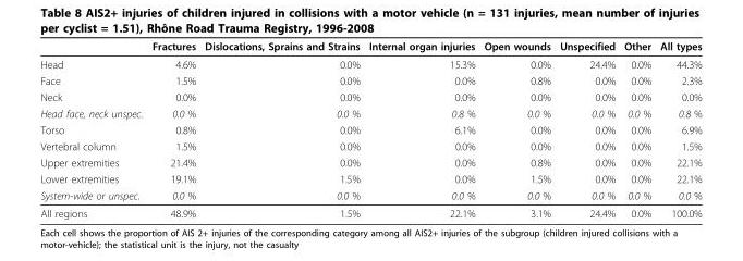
<table><thead><tr><td></td><td>Fractures</td><td>Dislocations, Sprains and Strains</td><td>Internal organ injuries</td><td>Open wounds</td><td>Unspecified</td><td>Other</td><td>All types</td></tr></thead><tbody><tr><td>Head</td><td>4.6%</td><td>0.0%</td><td>15.3%</td><td>0.0%</td><td>24.4%</td><td>0.0%</td><td>44.3%</td></tr><tr><td>Face</td><td>1.5%</td><td>0.0%</td><td>0.0%</td><td>0.8%</td><td>0.0%</td><td>0.0%</td><td>2.3%</td></tr><tr><td>Neck</td><td>0.0%</td><td>0.0%</td><td>0.0%</td><td>0.0%</td><td>0.0%</td><td>0.0%</td><td>0.0%</td></tr><tr><td>Head face, neck unspec.</td><td>0.0 %</td><td>0.0 %</td><td>0.8 %</td><td>0.0 %</td><td>0.0 %</td><td>0.0 %</td><td>0.8 %</td></tr><tr><td>Torso</td><td>0.8%</td><td>0.0%</td><td>6.1%</td><td>0.0%</td><td>0.0%</td><td>0.0%</td><td>6.9%</td></tr><tr><td>Vertebral column</td><td>1.5%</td><td>0.0%</td><td>0.0%</td><td>0.0%</td><td>0.0%</td><td>0.0%</td><td>1.5%</td></tr><tr><td>Upper extremities</td><td>21.4%</td><td>0.0%</td><td>0.0%</td><td>0.8%</td><td>0.0%</td><td>0.0%</td><td>22.1%</td></tr><tr><td>Lower extremities</td><td>19.1%</td><td>1.5%</td><td>0.0%</td><td>1.5%</td><td>0.0%</td><td>0.0%</td><td>22.1%</td></tr><tr><td>System-wide or unspec.</td><td>0.0 %</td><td>0.0 %</td><td>0.0 %</td><td>0.0 %</td><td>0.0 %</td><td>0.0 %</td><td>0.0 %</td></tr><tr><td>All regions</td><td>48.9%</td><td>1.5%</td><td>22.1%</td><td>3.1%</td><td>24.4%</td><td>0.0%</td><td>100.0%</td></tr></tbody></table>